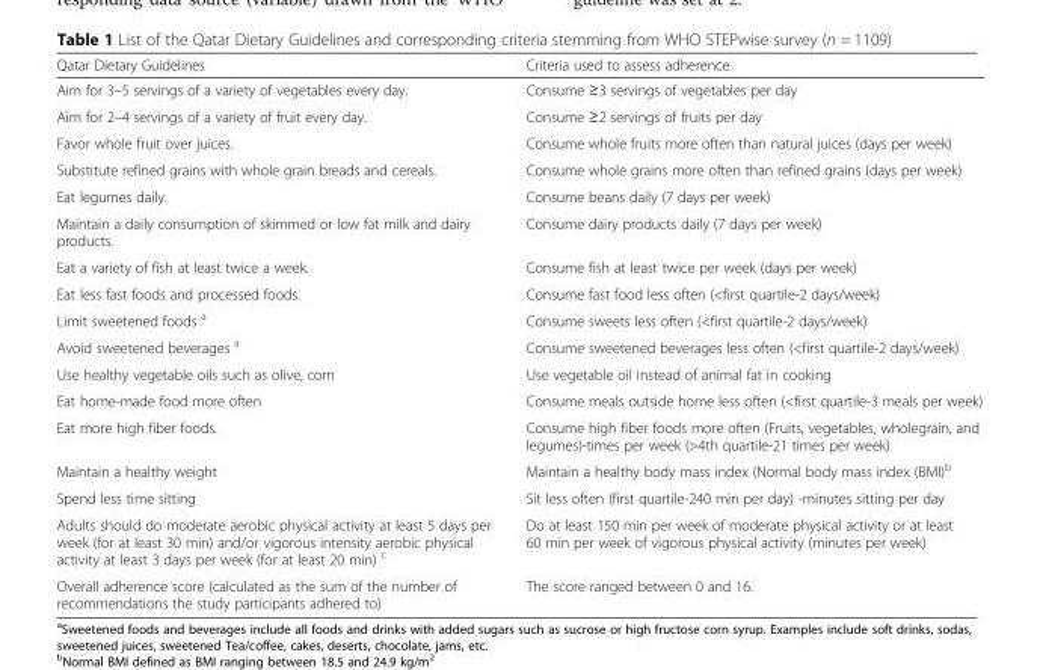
<table><thead><tr><td>Qatar Dietary Guidelines</td><td>Criteria used to assess adherence</td></tr></thead><tbody><tr><td>Aim for 3–5 servings of a variety of vegetables every day.</td><td>Consume ≥3 servings of vegetables per day</td></tr><tr><td>Aim for 2–4 servings of a variety of fruit every day.</td><td>Consume ≥2 servings of fruits per day</td></tr><tr><td>Favor whole fruit over juices.</td><td>Consume whole fruits more often than natural juices (days per week)</td></tr><tr><td>Substitute refined grains with whole grain breads and cereals.</td><td>Consume whole grains more often than refined grains (days per week)</td></tr><tr><td>Eat legumes daily.</td><td>Consume beans daily (7 days per week)</td></tr><tr><td>Maintain a daily consumption of skimmed or low fat milk and dairy products.</td><td>Consume dairy products daily (7 days per week)</td></tr><tr><td>Eat a variety of fish at least twice a week.</td><td>Consume fish at least twice per week (days per week)</td></tr><tr><td>Eat less fast foods and processed foods.</td><td>Consume fast food less often (&lt;first quartile-2 days/week)</td></tr><tr><td>Limit sweetened foods <sup>a</sup></td><td>Consume sweets less often (&lt;first quartile-2 days/week)</td></tr><tr><td>Avoid sweetened beverages <sup>a</sup></td><td>Consume sweetened beverages less often (&lt;first quartile-2 days/week)</td></tr><tr><td>Use healthy vegetable oils such as olive, corn</td><td>Use vegetable oil instead of animal fat in cooking</td></tr><tr><td>Eat home-made food more often</td><td>Consume meals outside home less often (&lt;first quartile-3 meals per week)</td></tr><tr><td>Eat more high fiber foods.</td><td>Consume high fiber foods more often (Fruits, vegetables, wholegrain, and legumes)-times per week (&gt;4th quartile-21 times per week)</td></tr><tr><td>Maintain a healthy weight</td><td>Maintain a healthy body mass index (Normal body mass index (BMI)<sup>b</sup></td></tr><tr><td>Spend less time sitting</td><td>Sit less often (first quartile-240 min per day) -minutes sitting per day</td></tr><tr><td>Adults should do moderate aerobic physical activity at least 5 days per week (for at least 30 min) and/or vigorous intensity aerobic physical activity at least 3 days per week (for at least 20 min) <sup>c</sup></td><td>Do at least 150 min per week of moderate physical activity or at least 60 min per week of vigorous physical activity (minutes per week)</td></tr><tr><td>Overall adherence score (calculated as the sum of the number of recommendations the study participants adhered to)</td><td>The score ranged between 0 and 16.</td></tr></tbody></table>